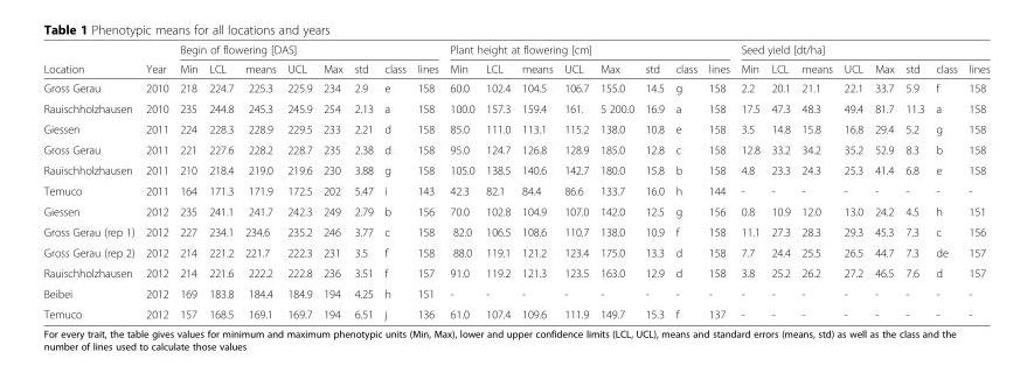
<table><thead><tr><td rowspan="2">Location</td><td rowspan="2">Year</td><td colspan="8">Begin of flowering [DAS]</td><td colspan="8">Plant height at flowering [cm]</td><td colspan="8">Seed yield [dt/ha]</td></tr><tr><td>Min</td><td>LCL</td><td>means</td><td>UCL</td><td>Max</td><td>std</td><td>class</td><td>lines</td><td>Min</td><td>LCL</td><td>means</td><td>UCL</td><td>Max</td><td>std</td><td>class</td><td>lines</td><td>Min</td><td>LCL</td><td>means</td><td>UCL</td><td>Max</td><td>std</td><td>class</td><td>lines</td></tr></thead><tbody><tr><td>Gross Gerau</td><td>2010</td><td>218</td><td>224.7</td><td>225.3</td><td>225.9</td><td>234</td><td>2.9</td><td>e</td><td>158</td><td>60.0</td><td>102.4</td><td>104.5</td><td>106.7</td><td>155.0</td><td>14.5</td><td>g</td><td>158</td><td>2.2</td><td>20.1</td><td>21.1</td><td>22.1</td><td>33.7</td><td>5.9</td><td>f</td><td>158</td></tr><tr><td>Rauischholzhausen</td><td>2010</td><td>235</td><td>244.8</td><td>245.3</td><td>245.9</td><td>254</td><td>2.13</td><td>a</td><td>158</td><td>100.0</td><td>157.3</td><td>159.4</td><td>161.</td><td>5 200.0</td><td>16.9</td><td>a</td><td>158</td><td>17.5</td><td>47.3</td><td>48.3</td><td>49.4</td><td>81.7</td><td>11.3</td><td>a</td><td>158</td></tr><tr><td>Giessen</td><td>2011</td><td>224</td><td>228.3</td><td>228.9</td><td>229.5</td><td>233</td><td>2.21</td><td>d</td><td>158</td><td>85.0</td><td>111.0</td><td>113.1</td><td>115.2</td><td>138.0</td><td>10.8</td><td>e</td><td>158</td><td>3.5</td><td>14.8</td><td>15.8</td><td>16.8</td><td>29.4</td><td>5.2</td><td>g</td><td>158</td></tr><tr><td>Gross Gerau</td><td>2011</td><td>221</td><td>227.6</td><td>228.2</td><td>228.7</td><td>235</td><td>2.38</td><td>d</td><td>158</td><td>95.0</td><td>124.7</td><td>126.8</td><td>128.9</td><td>185.0</td><td>12.8</td><td>c</td><td>158</td><td>12.8</td><td>33.2</td><td>34.2</td><td>35.2</td><td>52.9</td><td>8.3</td><td>b</td><td>158</td></tr><tr><td>Rauischholzhausen</td><td>2011</td><td>210</td><td>218.4</td><td>219.0</td><td>219.6</td><td>230</td><td>3.88</td><td>g</td><td>158</td><td>105.0</td><td>138.5</td><td>140.6</td><td>142.7</td><td>180.0</td><td>15.8</td><td>b</td><td>158</td><td>4.8</td><td>23.3</td><td>24.3</td><td>25.3</td><td>41.4</td><td>6.8</td><td>e</td><td>158</td></tr><tr><td>Temuco</td><td>2011</td><td>164</td><td>171.3</td><td>171.9</td><td>172.5</td><td>202</td><td>5.47</td><td>i</td><td>143</td><td>42.3</td><td>82.1</td><td>84.4</td><td>86.6</td><td>133.7</td><td>16.0</td><td>h</td><td>144</td><td>-</td><td>-</td><td>-</td><td>-</td><td>-</td><td>-</td><td>-</td><td>-</td></tr><tr><td>Giessen</td><td>2012</td><td>235</td><td>241.1</td><td>241.7</td><td>242.3</td><td>249</td><td>2.79</td><td>b</td><td>156</td><td>70.0</td><td>102.8</td><td>104.9</td><td>107.0</td><td>142.0</td><td>12.5</td><td>g</td><td>156</td><td>0.8</td><td>10.9</td><td>12.0</td><td>13.0</td><td>24.2</td><td>4.5</td><td>h</td><td>151</td></tr><tr><td>Gross Gerau (rep 1)</td><td>2012</td><td>227</td><td>234.1</td><td>234.6</td><td>235.2</td><td>246</td><td>3.77</td><td>c</td><td>158</td><td>82.0</td><td>106.5</td><td>108.6</td><td>110.7</td><td>138.0</td><td>10.9</td><td>f</td><td>158</td><td>11.1</td><td>27.3</td><td>28.3</td><td>29.3</td><td>45.3</td><td>7.3</td><td>c</td><td>156</td></tr><tr><td>Gross Gerau (rep 2)</td><td>2012</td><td>214</td><td>221.2</td><td>221.7</td><td>222.3</td><td>231</td><td>3.5</td><td>f</td><td>158</td><td>88.0</td><td>119.1</td><td>121.2</td><td>123.4</td><td>175.0</td><td>13.3</td><td>d</td><td>158</td><td>7.7</td><td>24.4</td><td>25.5</td><td>26.5</td><td>44.7</td><td>7.3</td><td>de</td><td>157</td></tr><tr><td>Rauischholzhausen</td><td>2012</td><td>214</td><td>221.6</td><td>222.2</td><td>222.8</td><td>236</td><td>3.51</td><td>f</td><td>157</td><td>91.0</td><td>119.2</td><td>121.3</td><td>123.5</td><td>163.0</td><td>12.9</td><td>d</td><td>158</td><td>3.8</td><td>25.2</td><td>26.2</td><td>27.2</td><td>46.5</td><td>7.6</td><td>d</td><td>157</td></tr><tr><td>Beibei</td><td>2012</td><td>169</td><td>183.8</td><td>184.4</td><td>184.9</td><td>194</td><td>4.25</td><td>h</td><td>151</td><td>-</td><td>-</td><td>-</td><td>-</td><td>-</td><td>-</td><td>-</td><td>-</td><td>-</td><td>-</td><td>-</td><td>-</td><td>-</td><td>-</td><td>-</td><td>-</td></tr><tr><td>Temuco</td><td>2012</td><td>157</td><td>168.5</td><td>169.1</td><td>169.7</td><td>194</td><td>6.51</td><td>j</td><td>136</td><td>61.0</td><td>107.4</td><td>109.6</td><td>111.9</td><td>149.7</td><td>15.3</td><td>f</td><td>137</td><td>-</td><td>-</td><td>-</td><td>-</td><td>-</td><td>-</td><td>-</td><td>-</td></tr></tbody></table>